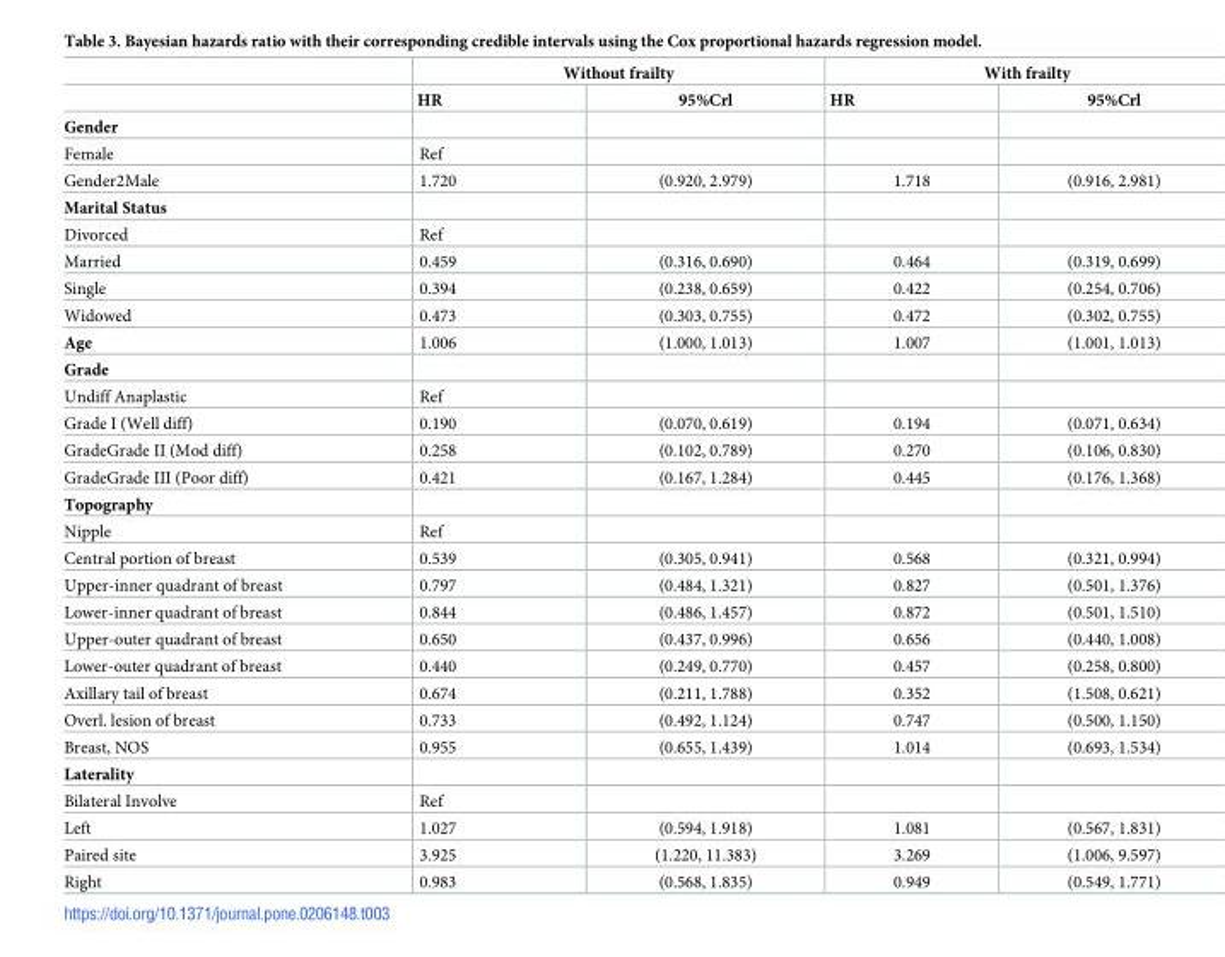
<table><thead><tr><td rowspan="2"></td><td colspan="2">Without frailty</td><td colspan="2">With frailty</td></tr><tr><td>HR</td><td>95%Crl</td><td>HR</td><td>95%Crl</td></tr></thead><tbody><tr><td colspan="5">Gender</td></tr><tr><td>Female</td><td>Ref</td><td></td><td></td><td></td></tr><tr><td>Gender2Male</td><td>1.720</td><td>(0.920, 2.979)</td><td>1.718</td><td>(0.916, 2.981)</td></tr><tr><td colspan="5">Marital Status</td></tr><tr><td>Divorced</td><td>Ref</td><td></td><td></td><td></td></tr><tr><td>Married</td><td>0.459</td><td>(0.316, 0.690)</td><td>0.464</td><td>(0.319, 0.699)</td></tr><tr><td>Single</td><td>0.394</td><td>(0.238, 0.659)</td><td>0.422</td><td>(0.254, 0.706)</td></tr><tr><td>Widowed</td><td>0.473</td><td>(0.303, 0.755)</td><td>0.472</td><td>(0.302, 0.755)</td></tr><tr><td>Age</td><td>1.006</td><td>(1.000, 1.013)</td><td>1.007</td><td>(1.001, 1.013)</td></tr><tr><td colspan="5">Grade</td></tr><tr><td>Undiff Anaplastic</td><td>Ref</td><td></td><td></td><td></td></tr><tr><td>Grade I (Well diff)</td><td>0.190</td><td>(0.070, 0.619)</td><td>0.194</td><td>(0.071, 0.634)</td></tr><tr><td>GradeGrade II (Mod diff)</td><td>0.258</td><td>(0.102, 0.789)</td><td>0.270</td><td>(0.106, 0.830)</td></tr><tr><td>GradeGrade III (Poor diff)</td><td>0.421</td><td>(0.167, 1.284)</td><td>0.445</td><td>(0.176, 1.368)</td></tr><tr><td colspan="5">Topography</td></tr><tr><td>Nipple</td><td>Ref</td><td></td><td></td><td></td></tr><tr><td>Central portion of breast</td><td>0.539</td><td>(0.305, 0.941)</td><td>0.568</td><td>(0.321, 0.994)</td></tr><tr><td>Upper-inner quadrant of breast</td><td>0.797</td><td>(0.484, 1.321)</td><td>0.827</td><td>(0.501, 1.376)</td></tr><tr><td>Lower-inner quadrant of breast</td><td>0.844</td><td>(0.486, 1.457)</td><td>0.872</td><td>(0.501, 1.510)</td></tr><tr><td>Upper-outer quadrant of breast</td><td>0.650</td><td>(0.437, 0.996)</td><td>0.656</td><td>(0.440, 1.008)</td></tr><tr><td>Lower-outer quadrant of breast</td><td>0.440</td><td>(0.249, 0.770)</td><td>0.457</td><td>(0.258, 0.800)</td></tr><tr><td>Axillary tail of breast</td><td>0.674</td><td>(0.211, 1.788)</td><td>0.352</td><td>(1.508, 0.621)</td></tr><tr><td>Overl. lesion of breast</td><td>0.733</td><td>(0.492, 1.124)</td><td>0.747</td><td>(0.500, 1.150)</td></tr><tr><td>Breast, NOS</td><td>0.955</td><td>(0.655, 1.439)</td><td>1.014</td><td>(0.693, 1.534)</td></tr><tr><td colspan="5">Laterality</td></tr><tr><td>Bilateral Involve</td><td>Ref</td><td></td><td></td><td></td></tr><tr><td>Left</td><td>1.027</td><td>(0.594, 1.918)</td><td>1.081</td><td>(0.567, 1.831)</td></tr><tr><td>Paired site</td><td>3.925</td><td>(1.220, 11.383)</td><td>3.269</td><td>(1.006, 9.597)</td></tr><tr><td>Right</td><td>0.983</td><td>(0.568, 1.835)</td><td>0.949</td><td>(0.549, 1.771)</td></tr></tbody></table>